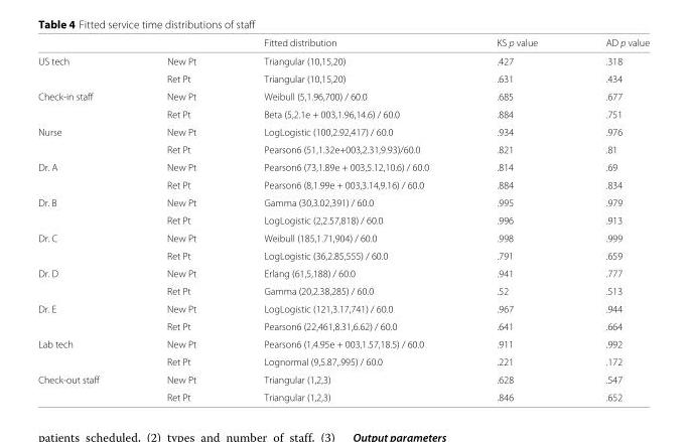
<table><thead><tr><td></td><td></td><td>Fitted distribution</td><td>KS p value</td><td>AD p value</td></tr></thead><tbody><tr><td rowspan="2">US tech</td><td>New Pt</td><td>Triangular (10,15,20)</td><td>.427</td><td>.318</td></tr><tr><td>Ret Pt</td><td>Triangular (10,15,20)</td><td>.631</td><td>.434</td></tr><tr><td rowspan="2">Check-in staff</td><td>New Pt</td><td>Weibull (5,1.96,700) / 60.0</td><td>.685</td><td>.677</td></tr><tr><td>Ret Pt</td><td>Beta (5,2.1e + 003,1.96,14.6) / 60.0</td><td>.884</td><td>.751</td></tr><tr><td rowspan="2">Nurse</td><td>New Pt</td><td>LogLogistic (100,2.92,417) / 60.0</td><td>.934</td><td>.976</td></tr><tr><td>Ret Pt</td><td>Pearson6 (51,1.32e+003,2.31,9.93)/60.0</td><td>.821</td><td>.81</td></tr><tr><td rowspan="2">Dr. A</td><td>New Pt</td><td>Pearson6 (73,1.89e + 003,5.12,10.6) / 60.0</td><td>.814</td><td>.69</td></tr><tr><td>Ret Pt</td><td>Pearson6 (8,1.99e + 003,3.14,9.16) / 60.0</td><td>.884</td><td>.834</td></tr><tr><td rowspan="2">Dr. B</td><td>New Pt</td><td>Gamma (30,3.02,391) / 60.0</td><td>.995</td><td>.979</td></tr><tr><td>Ret Pt</td><td>LogLogistic (2,2.57,818) / 60.0</td><td>.996</td><td>.913</td></tr><tr><td rowspan="2">Dr. C</td><td>New Pt</td><td>Weibull (185,1.71,904) / 60.0</td><td>.998</td><td>.999</td></tr><tr><td>Ret Pt</td><td>LogLogistic (36,2.85,555) / 60.0</td><td>.791</td><td>.659</td></tr><tr><td rowspan="2">Dr. D</td><td>New Pt</td><td>Erlang (61,5,188) / 60.0</td><td>.941</td><td>.777</td></tr><tr><td>Ret Pt</td><td>Gamma (20,2.38,285) / 60.0</td><td>.52</td><td>.513</td></tr><tr><td rowspan="2">Dr. E</td><td>New Pt</td><td>LogLogistic (121,3.17,741) / 60.0</td><td>.967</td><td>.944</td></tr><tr><td>Ret Pt</td><td>Pearson6 (22,461,8.31,6.62) / 60.0</td><td>.641</td><td>.664</td></tr><tr><td rowspan="2">Lab tech</td><td>New Pt</td><td>Pearson6 (1,4.95e + 003,1.57,18.5) / 60.0</td><td>.911</td><td>.992</td></tr><tr><td>Ret Pt</td><td>Lognormal (9,5.87,.995) / 60.0</td><td>.221</td><td>.172</td></tr><tr><td rowspan="2">Check-out staff</td><td>New Pt</td><td>Triangular (1,2,3)</td><td>.628</td><td>.547</td></tr><tr><td>Ret Pt</td><td>Triangular (1,2,3)</td><td>.846</td><td>.652</td></tr></tbody></table>